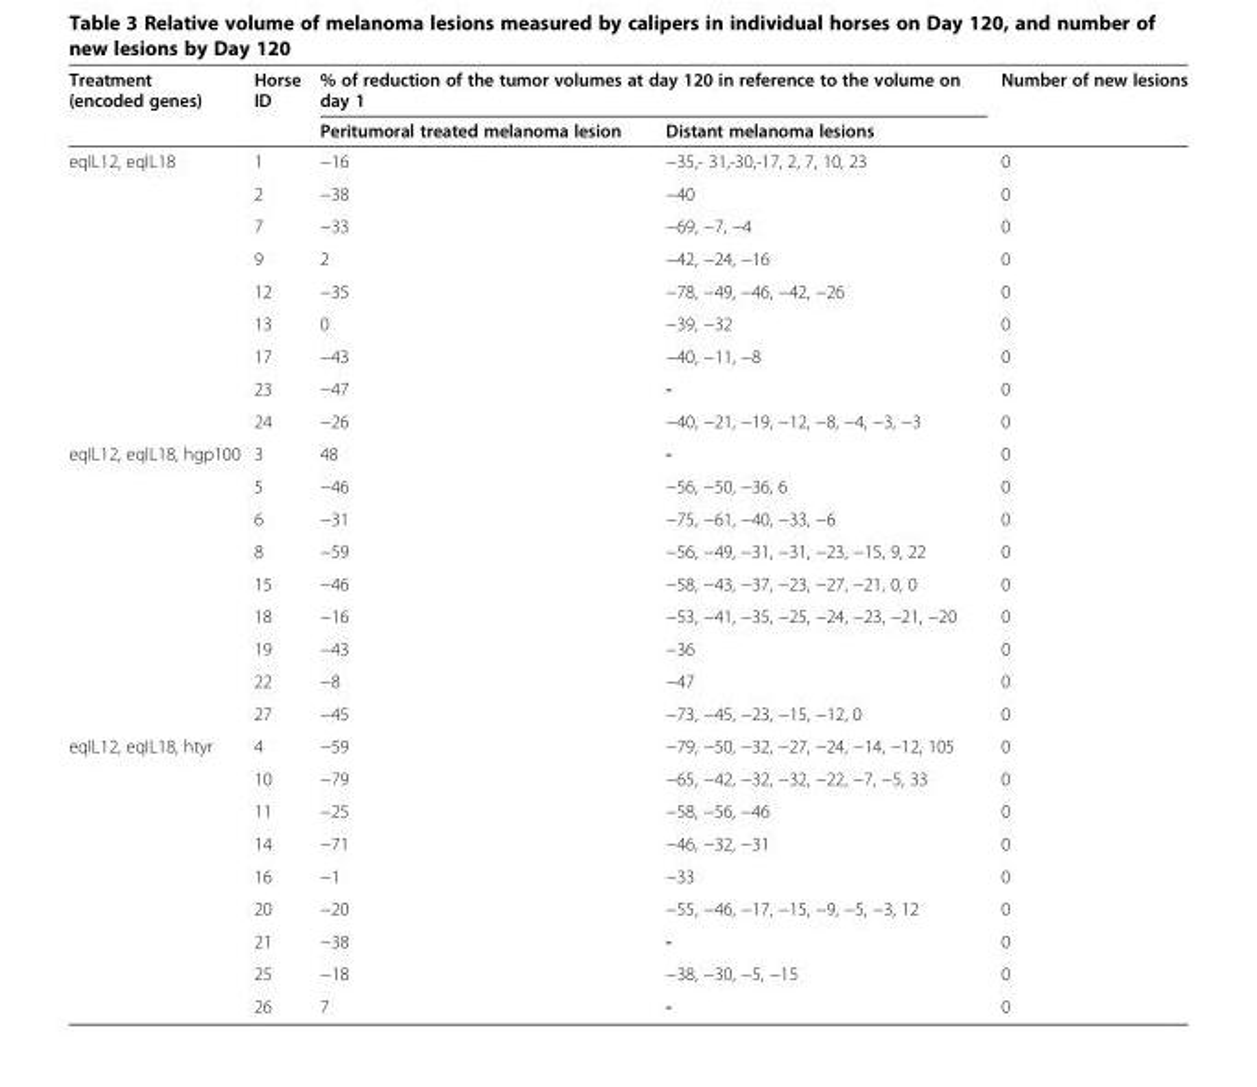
<table><thead><tr><td rowspan="2">Treatment (encoded genes)</td><td rowspan="2">Horse ID</td><td colspan="2">% of reduction of the tumor volumes at day 120 in reference to the volume on day 1</td><td rowspan="2">Number of new lesions</td></tr><tr><td>Peritumoral treated melanoma lesion</td><td>Distant melanoma lesions</td></tr></thead><tbody><tr><td rowspan="9">eqIL12, eqIL18</td><td>1</td><td>−16</td><td>−35,- 31,-30,-17, 2, 7, 10, 23</td><td>0</td></tr><tr><td>2</td><td>−38</td><td>−40</td><td>0</td></tr><tr><td>7</td><td>−33</td><td>−69, −7, −4</td><td>0</td></tr><tr><td>9</td><td>2</td><td>−42, −24, −16</td><td>0</td></tr><tr><td>12</td><td>−35</td><td>−78, −49, −46, −42, −26</td><td>0</td></tr><tr><td>13</td><td>0</td><td>−39, −32</td><td>0</td></tr><tr><td>17</td><td>−43</td><td>−40, −11, −8</td><td>0</td></tr><tr><td>23</td><td>−47</td><td>-</td><td>0</td></tr><tr><td>24</td><td>−26</td><td>−40, −21, −19, −12, −8, −4, −3, −3</td><td>0</td></tr><tr><td rowspan="9">eqIL12, eqIL18, hgp100</td><td>3</td><td>48</td><td>-</td><td>0</td></tr><tr><td>5</td><td>−46</td><td>−56, −50, −36, 6</td><td>0</td></tr><tr><td>6</td><td>−31</td><td>−75, −61, −40, −33, −6</td><td>0</td></tr><tr><td>8</td><td>−59</td><td>−56, −49, −31, −31, −23, −15, 9, 22</td><td>0</td></tr><tr><td>15</td><td>−46</td><td>−58, −43, −37, −23, −27, −21, 0, 0</td><td>0</td></tr><tr><td>18</td><td>−16</td><td>−53, −41, −35, −25, −24, −23, −21, −20</td><td>0</td></tr><tr><td>19</td><td>−43</td><td>−36</td><td>0</td></tr><tr><td>22</td><td>−8</td><td>−47</td><td>0</td></tr><tr><td>27</td><td>−45</td><td>−73, −45, −23, −15, −12, 0</td><td>0</td></tr><tr><td rowspan="9">eqIL12, eqIL18, htyr</td><td>4</td><td>−59</td><td>−79, −50, −32, −27, −24, −14, −12, 105</td><td>0</td></tr><tr><td>10</td><td>−79</td><td>−65, −42, −32, −32, −22, −7, −5, 33</td><td>0</td></tr><tr><td>11</td><td>−25</td><td>−58, −56, −46</td><td>0</td></tr><tr><td>14</td><td>−71</td><td>−46, −32, −31</td><td>0</td></tr><tr><td>16</td><td>−1</td><td>−33</td><td>0</td></tr><tr><td>20</td><td>−20</td><td>−55, −46, −17, −15, −9, −5, −3, 12</td><td>0</td></tr><tr><td>21</td><td>−38</td><td>-</td><td>0</td></tr><tr><td>25</td><td>−18</td><td>−38, −30, −5, −15</td><td>0</td></tr><tr><td>26</td><td>7</td><td>-</td><td>0</td></tr></tbody></table>